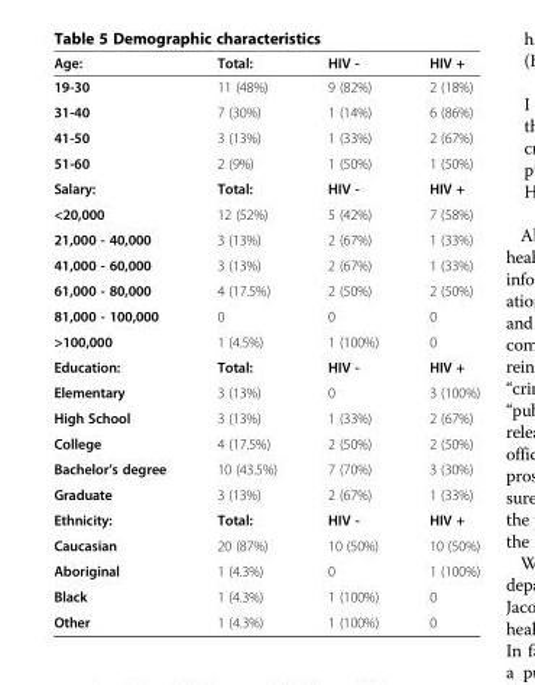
<table><thead><tr><td>Age:</td><td>Total:</td><td>HIV -</td><td>HIV +</td></tr></thead><tbody><tr><td>19-30</td><td>11 (48%)</td><td>9 (82%)</td><td>2 (18%)</td></tr><tr><td>31-40</td><td>7 (30%)</td><td>1 (14%)</td><td>6 (86%)</td></tr><tr><td>41-50</td><td>3 (13%)</td><td>1 (33%)</td><td>2 (67%)</td></tr><tr><td>51-60</td><td>2 (9%)</td><td>1 (50%)</td><td>1 (50%)</td></tr><tr><td>Salary:</td><td>Total:</td><td>HIV -</td><td>HIV +</td></tr><tr><td>&lt;20,000</td><td>12 (52%)</td><td>5 (42%)</td><td>7 (58%)</td></tr><tr><td>21,000 - 40,000</td><td>3 (13%)</td><td>2 (67%)</td><td>1 (33%)</td></tr><tr><td>41,000 - 60,000</td><td>3 (13%)</td><td>2 (67%)</td><td>1 (33%)</td></tr><tr><td>61,000 - 80,000</td><td>4 (17.5%)</td><td>2 (50%)</td><td>2 (50%)</td></tr><tr><td>81,000 - 100,000</td><td>0</td><td>0</td><td>0</td></tr><tr><td>&gt;100,000</td><td>1 (4.5%)</td><td>1 (100%)</td><td>0</td></tr><tr><td>Education:</td><td>Total:</td><td>HIV -</td><td>HIV +</td></tr><tr><td>Elementary</td><td>3 (13%)</td><td>0</td><td>3 (100%)</td></tr><tr><td>High School</td><td>3 (13%)</td><td>1 (33%)</td><td>2 (67%)</td></tr><tr><td>College</td><td>4 (17.5%)</td><td>2 (50%)</td><td>2 (50%)</td></tr><tr><td>Bachelor’s degree</td><td>10 (43.5%)</td><td>7 (70%)</td><td>3 (30%)</td></tr><tr><td>Graduate</td><td>3 (13%)</td><td>2 (67%)</td><td>1 (33%)</td></tr><tr><td>Ethnicity:</td><td>Total:</td><td>HIV -</td><td>HIV +</td></tr><tr><td>Caucasian</td><td>20 (87%)</td><td>10 (50%)</td><td>10 (50%)</td></tr><tr><td>Aboriginal</td><td>1 (4.3%)</td><td>0</td><td>1 (100%)</td></tr><tr><td>Black</td><td>1 (4.3%)</td><td>1 (100%)</td><td>0</td></tr><tr><td>Other</td><td>1 (4.3%)</td><td>1 (100%)</td><td>0</td></tr></tbody></table>